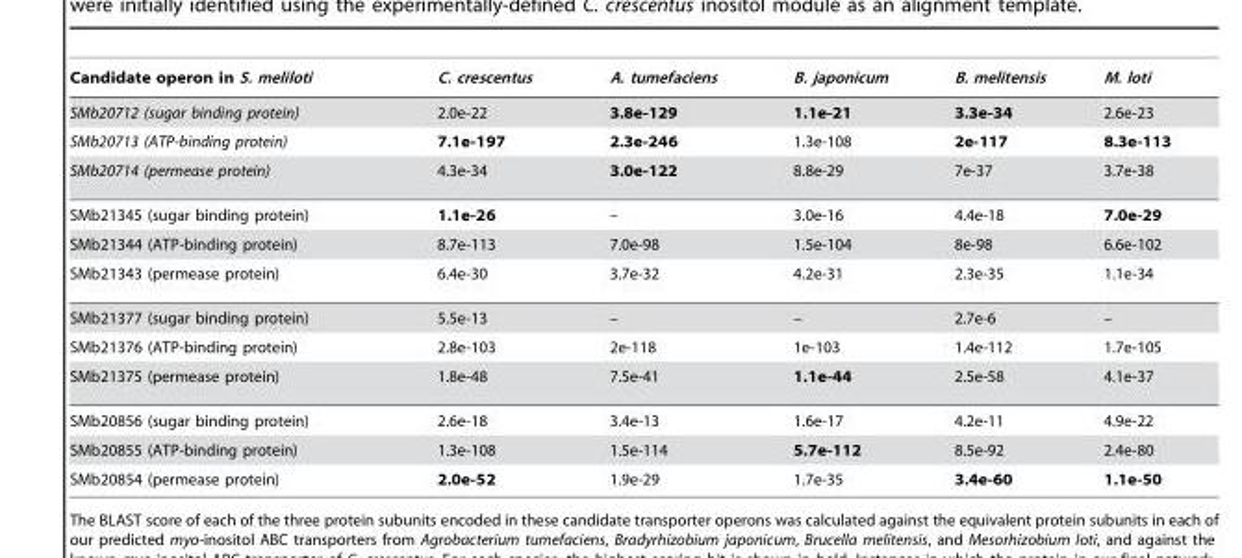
<table><thead><tr><td>Candidate operon in S. meliloti</td><td>C. crescentus</td><td>A. tumefaciens</td><td>B. japonicum</td><td>B. melitensis</td><td>M. loti</td></tr></thead><tbody><tr><td>SMb20712 (sugar binding protein)</td><td>2.0e-22</td><td>3.8e-129</td><td>1.1e-21</td><td>3.3e-34</td><td>2.6e-23</td></tr><tr><td>SMb20713 (ATP-binding protein)</td><td>7.1e-197</td><td>2.3e-246</td><td>1.3e-108</td><td>2e-117</td><td>8.3e-113</td></tr><tr><td>SMb20714 (permease protein)</td><td>4.3e-34</td><td>3.0e-122</td><td>8.8e-29</td><td>7e-37</td><td>3.7e-38</td></tr><tr><td>SMb21345 (sugar binding protein)</td><td>1.1e-26</td><td>–</td><td>3.0e-16</td><td>4.4e-18</td><td>7.0e-29</td></tr><tr><td>SMb21344 (ATP-binding protein)</td><td>8.7e-113</td><td>7.0e-98</td><td>1.5e-104</td><td>8e-98</td><td>6.6e-102</td></tr><tr><td>SMb21343 (permease protein)</td><td>6.4e-30</td><td>3.7e-32</td><td>4.2e-31</td><td>2.3e-35</td><td>1.1e-34</td></tr><tr><td>SMb21377 (sugar binding protein)</td><td>5.5e-13</td><td>–</td><td>–</td><td>2.7e-6</td><td>–</td></tr><tr><td>SMb21376 (ATP-binding protein)</td><td>2.8e-103</td><td>2e-118</td><td>1e-103</td><td>1.4e-112</td><td>1.7e-105</td></tr><tr><td>SMb21375 (permease protein)</td><td>1.8e-48</td><td>7.5e-41</td><td>1.1e-44</td><td>2.5e-58</td><td>4.1e-37</td></tr><tr><td>SMb20856 (sugar binding protein)</td><td>2.6e-18</td><td>3.4e-13</td><td>1.6e-17</td><td>4.2e-11</td><td>4.9e-22</td></tr><tr><td>SMb20855 (ATP-binding protein)</td><td>1.3e-108</td><td>1.5e-114</td><td>5.7e-112</td><td>8.5e-92</td><td>2.4e-80</td></tr><tr><td>SMb20854 (permease protein)</td><td>2.0e-52</td><td>1.9e-29</td><td>1.7e-35</td><td>3.4e-60</td><td>1.1e-50</td></tr></tbody></table>